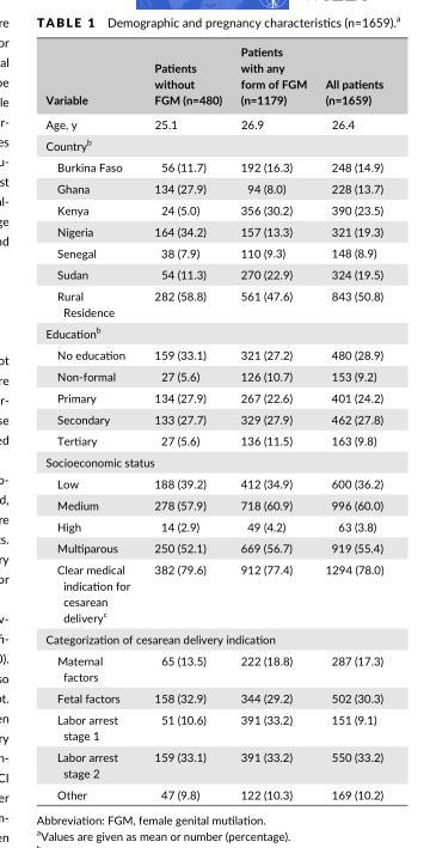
<table><thead><tr><td>Variable</td><td>Patients without FGM (n=480)</td><td>Patients with any form of FGM (n=1179)</td><td>All patients (n=1659)</td></tr></thead><tbody><tr><td>Age, y</td><td>25.1</td><td>26.9</td><td>26.4</td></tr><tr><td colspan="4">Country<sup>b</sup></td></tr><tr><td>Burkina Faso</td><td>56 (11.7)</td><td>192 (16.3)</td><td>248 (14.9)</td></tr><tr><td>Ghana</td><td>134 (27.9)</td><td>94 (8.0)</td><td>228 (13.7)</td></tr><tr><td>Kenya</td><td>24 (5.0)</td><td>356 (30.2)</td><td>390 (23.5)</td></tr><tr><td>Nigeria</td><td>164 (34.2)</td><td>157 (13.3)</td><td>321 (19.3)</td></tr><tr><td>Senegal</td><td>38 (7.9)</td><td>110 (9.3)</td><td>148 (8.9)</td></tr><tr><td>Sudan</td><td>54 (11.3)</td><td>270 (22.9)</td><td>324 (19.5)</td></tr><tr><td>Rural Residence</td><td>282 (58.8)</td><td>561 (47.6)</td><td>843 (50.8)</td></tr><tr><td colspan="4">Education<sup>b</sup></td></tr><tr><td>No education</td><td>159 (33.1)</td><td>321 (27.2)</td><td>480 (28.9)</td></tr><tr><td>Non- formal</td><td>27 (5.6)</td><td>126 (10.7)</td><td>153 (9.2)</td></tr><tr><td>Primary</td><td>134 (27.9)</td><td>267 (22.6)</td><td>401 (24.2)</td></tr><tr><td>Secondary</td><td>133 (27.7)</td><td>329 (27.9)</td><td>462 (27.8)</td></tr><tr><td>Tertiary</td><td>27 (5.6)</td><td>136 (11.5)</td><td>163 (9.8)</td></tr><tr><td colspan="4">Socioeconomic status</td></tr><tr><td>Low</td><td>188 (39.2)</td><td>412 (34.9)</td><td>600 (36.2)</td></tr><tr><td>Medium</td><td>278 (57.9)</td><td>718 (60.9)</td><td>996 (60.0)</td></tr><tr><td>High</td><td>14 (2.9)</td><td>49 (4.2)</td><td>63 (3.8)</td></tr><tr><td>Multiparous</td><td>250 (52.1)</td><td>669 (56.7)</td><td>919 (55.4)</td></tr><tr><td>Clear medical indication for cesarean delivery<sup>c</sup></td><td>382 (79.6)</td><td>912 (77.4)</td><td>1294 (78.0)</td></tr><tr><td colspan="4">Categorization of cesarean delivery indication</td></tr><tr><td>Maternal factors</td><td>65 (13.5)</td><td>222 (18.8)</td><td>287 (17.3)</td></tr><tr><td>Fetal factors</td><td>158 (32.9)</td><td>344 (29.2)</td><td>502 (30.3)</td></tr><tr><td>Labor arrest stage 1</td><td>51 (10.6)</td><td>391 (33.2)</td><td>151 (9.1)</td></tr><tr><td>Labor arrest stage 2</td><td>159 (33.1)</td><td>391 (33.2)</td><td>550 (33.2)</td></tr><tr><td>Other</td><td>47 (9.8)</td><td>122 (10.3)</td><td>169 (10.2)</td></tr></tbody></table>